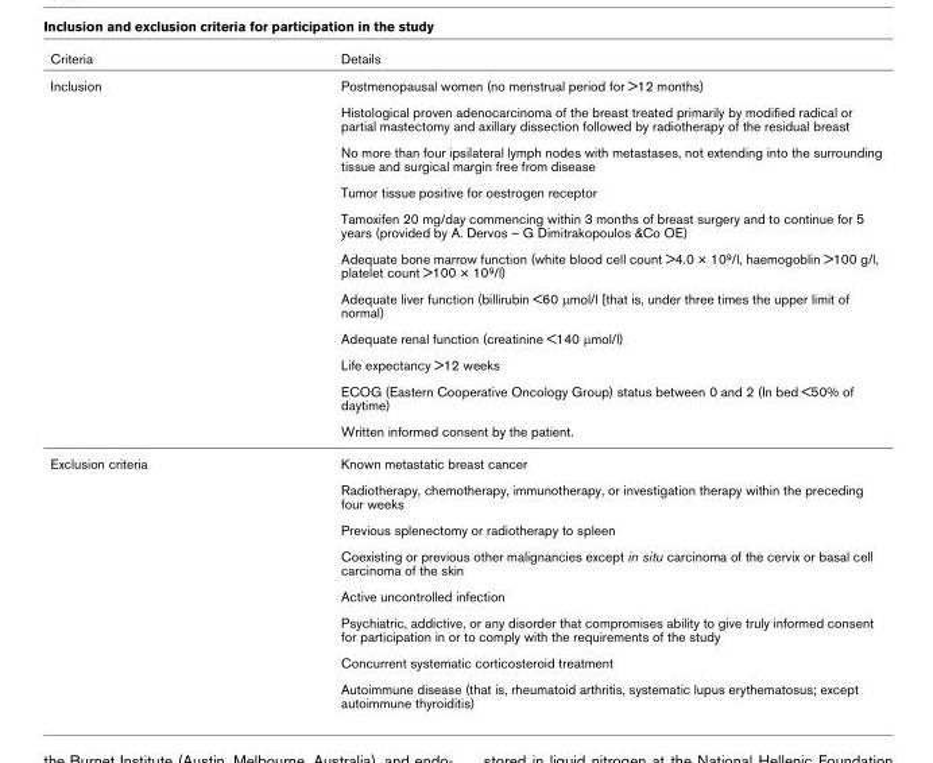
<table><thead><tr><td>Criteria</td><td>Details</td></tr></thead><tbody><tr><td rowspan="11">Inclusion</td><td>Postmenopausal women (no menstrual period for &gt;12 months)</td></tr><tr><td>Histological proven adenocarcinoma of the breast treated primarily by modified radical or partial mastectomy and axillary dissection followed by radiotherapy of the residual breast</td></tr><tr><td>No more than four ipsilateral lymph nodes with metastases, not extending into the surrounding tissue and surgical margin free from disease</td></tr><tr><td>Tumor tissue positive for oestrogen receptor</td></tr><tr><td>Tamoxifen 20 mg/day commencing within 3 months of breast surgery and to continue for 5 years (provided by A. Dervos – G Dimitrakopoulos &amp;Co OE)</td></tr><tr><td>Adequate bone marrow function (white blood cell count &gt;4.0 × 109/l, haemogoblin &gt;100 g/l, platelet count &gt;100 × 109/l)</td></tr><tr><td>Adequate liver function (billirubin &lt;60 µmol/l [that is, under three times the upper limit of normal)</td></tr><tr><td>Adequate renal function (creatinine &lt;140 µmol/l)</td></tr><tr><td>Life expectancy &gt;12 weeks</td></tr><tr><td>ECOG (Eastern Cooperative Oncology Group) status between 0 and 2 (In bed &lt;50% of daytime)</td></tr><tr><td>Written informed consent by the patient.</td></tr><tr><td rowspan="8">Exclusion criteria</td><td>Known metastatic breast cancer</td></tr><tr><td>Radiotherapy, chemotherapy, immunotherapy, or investigation therapy within the preceding four weeks</td></tr><tr><td>Previous splenectomy or radiotherapy to spleen</td></tr><tr><td>Coexisting or previous other malignancies except in situ carcinoma of the cervix or basal cell carcinoma of the skin</td></tr><tr><td>Active uncontrolled infection</td></tr><tr><td>Psychiatric, addictive, or any disorder that compromises ability to give truly informed consent for participation in or to comply with the requirements of the study</td></tr><tr><td>Concurrent systematic corticosteroid treatment</td></tr><tr><td>Autoimmune disease (that is, rheumatoid arthritis, systematic lupus erythematosus; except autoimmune thyroiditis)</td></tr></tbody></table>